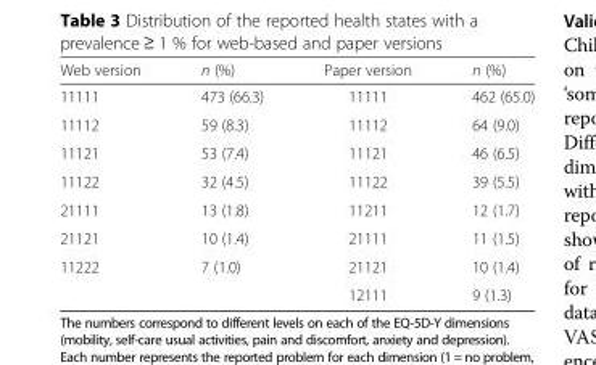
<table><thead><tr><td>Web version</td><td>n (%)</td><td>Paper version</td><td>n (%)</td></tr></thead><tbody><tr><td>11111</td><td>473 (66.3)</td><td>11111</td><td>462 (65.0)</td></tr><tr><td>11112</td><td>59 (8.3)</td><td>11112</td><td>64 (9.0)</td></tr><tr><td>11121</td><td>53 (7.4)</td><td>11121</td><td>46 (6.5)</td></tr><tr><td>11122</td><td>32 (4.5)</td><td>11122</td><td>39 (5.5)</td></tr><tr><td>21111</td><td>13 (1.8)</td><td>11211</td><td>12 (1.7)</td></tr><tr><td>21121</td><td>10 (1.4)</td><td>21111</td><td>11 (1.5)</td></tr><tr><td rowspan="2">11222</td><td>7 (1.0)</td><td>21121</td><td>10 (1.4)</td></tr><tr><td></td><td>12111</td><td>9 (1.3)</td></tr></tbody></table>